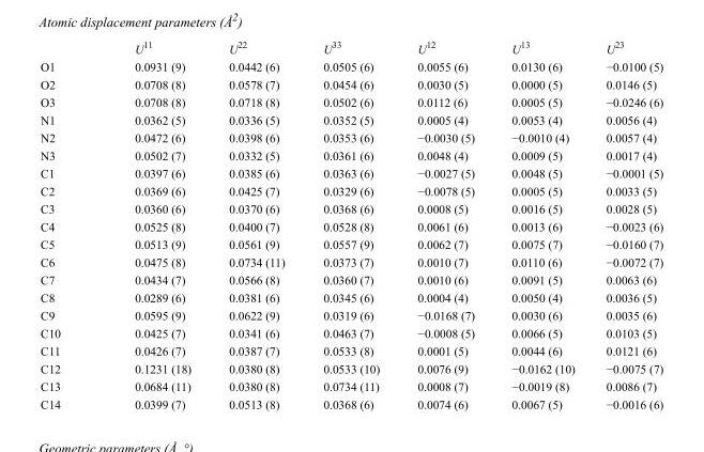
<table><thead><tr><td></td><td>U<sup>11</sup></td><td>U<sup>22</sup></td><td>U<sup>33</sup></td><td>U<sup>12</sup></td><td>U<sup>13</sup></td><td>U<sup>23</sup></td></tr></thead><tbody><tr><td>O1</td><td>0.0931 (9)</td><td>0.0442 (6)</td><td>0.0505 (6)</td><td>0.0055 (6)</td><td>0.0130 (6)</td><td>−0.0100 (5)</td></tr><tr><td>O2</td><td>0.0708 (8)</td><td>0.0578 (7)</td><td>0.0454 (6)</td><td>0.0030 (5)</td><td>0.0000 (5)</td><td>0.0146 (5)</td></tr><tr><td>O3</td><td>0.0708 (8)</td><td>0.0718 (8)</td><td>0.0502 (6)</td><td>0.0112 (6)</td><td>0.0005 (5)</td><td>−0.0246 (6)</td></tr><tr><td>N1</td><td>0.0362 (5)</td><td>0.0336 (5)</td><td>0.0352 (5)</td><td>0.0005 (4)</td><td>0.0053 (4)</td><td>0.0056 (4)</td></tr><tr><td>N2</td><td>0.0472 (6)</td><td>0.0398 (6)</td><td>0.0353 (6)</td><td>−0.0030 (5)</td><td>−0.0010 (4)</td><td>0.0057 (4)</td></tr><tr><td>N3</td><td>0.0502 (7)</td><td>0.0332 (5)</td><td>0.0361 (6)</td><td>0.0048 (4)</td><td>0.0009 (5)</td><td>0.0017 (4)</td></tr><tr><td>C1</td><td>0.0397 (6)</td><td>0.0385 (6)</td><td>0.0363 (6)</td><td>−0.0027 (5)</td><td>0.0048 (5)</td><td>−0.0001 (5)</td></tr><tr><td>C2</td><td>0.0369 (6)</td><td>0.0425 (7)</td><td>0.0329 (6)</td><td>−0.0078 (5)</td><td>0.0005 (5)</td><td>0.0033 (5)</td></tr><tr><td>C3</td><td>0.0360 (6)</td><td>0.0370 (6)</td><td>0.0368 (6)</td><td>0.0008 (5)</td><td>0.0016 (5)</td><td>0.0028 (5)</td></tr><tr><td>C4</td><td>0.0525 (8)</td><td>0.0400 (7)</td><td>0.0528 (8)</td><td>0.0061 (6)</td><td>0.0013 (6)</td><td>−0.0023 (6)</td></tr><tr><td>C5</td><td>0.0513 (9)</td><td>0.0561 (9)</td><td>0.0557 (9)</td><td>0.0062 (7)</td><td>0.0075 (7)</td><td>−0.0160 (7)</td></tr><tr><td>C6</td><td>0.0475 (8)</td><td>0.0734 (11)</td><td>0.0373 (7)</td><td>0.0010 (7)</td><td>0.0110 (6)</td><td>−0.0072 (7)</td></tr><tr><td>C7</td><td>0.0434 (7)</td><td>0.0566 (8)</td><td>0.0360 (7)</td><td>0.0010 (6)</td><td>0.0091 (5)</td><td>0.0063 (6)</td></tr><tr><td>C8</td><td>0.0289 (6)</td><td>0.0381 (6)</td><td>0.0345 (6)</td><td>0.0004 (4)</td><td>0.0050 (4)</td><td>0.0036 (5)</td></tr><tr><td>C9</td><td>0.0595 (9)</td><td>0.0622 (9)</td><td>0.0319 (6)</td><td>−0.0168 (7)</td><td>0.0030 (6)</td><td>0.0035 (6)</td></tr><tr><td>C10</td><td>0.0425 (7)</td><td>0.0341 (6)</td><td>0.0463 (7)</td><td>−0.0008 (5)</td><td>0.0066 (5)</td><td>0.0103 (5)</td></tr><tr><td>C11</td><td>0.0426 (7)</td><td>0.0387 (7)</td><td>0.0533 (8)</td><td>0.0001 (5)</td><td>0.0044 (6)</td><td>0.0121 (6)</td></tr><tr><td>C12</td><td>0.1231 (18)</td><td>0.0380 (8)</td><td>0.0533 (10)</td><td>0.0076 (9)</td><td>−0.0162 (10)</td><td>−0.0075 (7)</td></tr><tr><td>C13</td><td>0.0684 (11)</td><td>0.0380 (8)</td><td>0.0734 (11)</td><td>0.0008 (7)</td><td>−0.0019 (8)</td><td>0.0086 (7)</td></tr><tr><td>C14</td><td>0.0399 (7)</td><td>0.0513 (8)</td><td>0.0368 (6)</td><td>0.0074 (6)</td><td>0.0067 (5)</td><td>−0.0016 (6)</td></tr></tbody></table>